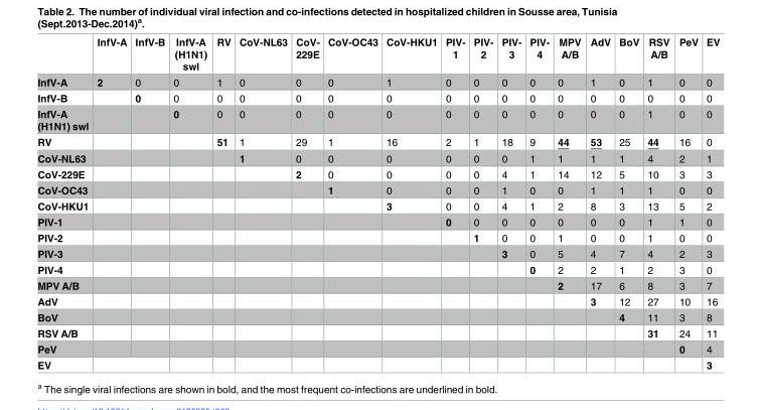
<table><thead><tr><td></td><td>InfV-A</td><td>InfV-B</td><td>InfV-A (H1N1) swl</td><td>RV</td><td>CoV-NL63</td><td>CoV- 229E</td><td>CoV-OC43</td><td>CoV-HKU1</td><td>PIV- 1</td><td>PIV- 2</td><td>PIV- 3</td><td>PIV- 4</td><td>MPV A/B</td><td>AdV</td><td>BoV</td><td>RSV A/B</td><td>PeV</td><td>EV</td></tr></thead><tbody><tr><td>InfV-A</td><td>2</td><td>0</td><td>0</td><td>1</td><td>0</td><td>0</td><td>0</td><td>1</td><td>0</td><td>0</td><td>0</td><td>0</td><td>0</td><td>1</td><td>0</td><td>1</td><td>0</td><td>0</td></tr><tr><td>InfV-B</td><td></td><td>0</td><td>0</td><td>0</td><td>0</td><td>0</td><td>0</td><td>0</td><td>0</td><td>0</td><td>0</td><td>0</td><td>0</td><td>0</td><td>0</td><td>0</td><td>0</td><td>0</td></tr><tr><td>InfV-A (H1N1) swl</td><td></td><td></td><td>0</td><td>0</td><td>0</td><td>0</td><td>0</td><td>0</td><td>0</td><td>0</td><td>0</td><td>0</td><td>0</td><td>0</td><td>0</td><td>1</td><td>0</td><td>0</td></tr><tr><td>RV</td><td></td><td></td><td></td><td>51</td><td>1</td><td>29</td><td>1</td><td>16</td><td>2</td><td>1</td><td>18</td><td>9</td><td>44</td><td>53</td><td>25</td><td>44</td><td>16</td><td>0</td></tr><tr><td>CoV-NL63</td><td></td><td></td><td></td><td></td><td>1</td><td>0</td><td>0</td><td>0</td><td>0</td><td>0</td><td>0</td><td>1</td><td>1</td><td>1</td><td>1</td><td>4</td><td>2</td><td>1</td></tr><tr><td>CoV-229E</td><td></td><td></td><td></td><td></td><td></td><td>2</td><td>0</td><td>0</td><td>0</td><td>0</td><td>4</td><td>1</td><td>14</td><td>12</td><td>5</td><td>10</td><td>3</td><td>3</td></tr><tr><td>CoV-OC43</td><td></td><td></td><td></td><td></td><td></td><td></td><td>1</td><td>0</td><td>0</td><td>0</td><td>1</td><td>0</td><td>0</td><td>1</td><td>1</td><td>1</td><td>0</td><td>0</td></tr><tr><td>CoV-HKU1</td><td></td><td></td><td></td><td></td><td></td><td></td><td></td><td>3</td><td>0</td><td>0</td><td>4</td><td>1</td><td>2</td><td>8</td><td>3</td><td>13</td><td>5</td><td>2</td></tr><tr><td>PIV-1</td><td></td><td></td><td></td><td></td><td></td><td></td><td></td><td></td><td>0</td><td>0</td><td>0</td><td>0</td><td>0</td><td>0</td><td>0</td><td>1</td><td>1</td><td>0</td></tr><tr><td>PIV-2</td><td></td><td></td><td></td><td></td><td></td><td></td><td></td><td></td><td></td><td>1</td><td>0</td><td>0</td><td>1</td><td>0</td><td>0</td><td>1</td><td>0</td><td>0</td></tr><tr><td>PIV-3</td><td></td><td></td><td></td><td></td><td></td><td></td><td></td><td></td><td></td><td></td><td>3</td><td>0</td><td>5</td><td>4</td><td>7</td><td>4</td><td>2</td><td>3</td></tr><tr><td>PIV-4</td><td></td><td></td><td></td><td></td><td></td><td></td><td></td><td></td><td></td><td></td><td></td><td>0</td><td>2</td><td>2</td><td>1</td><td>2</td><td>3</td><td>0</td></tr><tr><td>MPV A/B</td><td></td><td></td><td></td><td></td><td></td><td></td><td></td><td></td><td></td><td></td><td></td><td></td><td>2</td><td>17</td><td>6</td><td>8</td><td>3</td><td>7</td></tr><tr><td>AdV</td><td></td><td></td><td></td><td></td><td></td><td></td><td></td><td></td><td></td><td></td><td></td><td></td><td></td><td>3</td><td>12</td><td>27</td><td>10</td><td>16</td></tr><tr><td>BoV</td><td></td><td></td><td></td><td></td><td></td><td></td><td></td><td></td><td></td><td></td><td></td><td></td><td></td><td></td><td>4</td><td>11</td><td>3</td><td>8</td></tr><tr><td>RSV A/B</td><td></td><td></td><td></td><td></td><td></td><td></td><td></td><td></td><td></td><td></td><td></td><td></td><td></td><td></td><td></td><td>31</td><td>24</td><td>11</td></tr><tr><td>PeV</td><td></td><td></td><td></td><td></td><td></td><td></td><td></td><td></td><td></td><td></td><td></td><td></td><td></td><td></td><td></td><td></td><td>0</td><td>4</td></tr><tr><td>EV</td><td colspan="2"></td><td></td><td></td><td></td><td></td><td></td><td></td><td></td><td></td><td></td><td></td><td></td><td></td><td></td><td></td><td></td><td>3</td></tr></tbody></table>